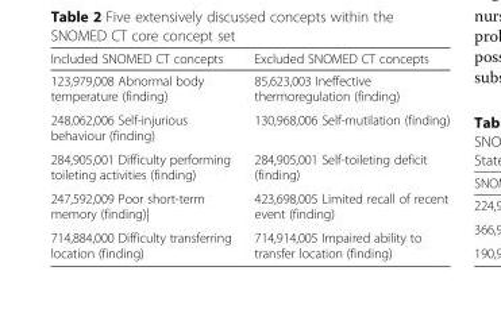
<table><thead><tr><td>Included SNOMED CT concepts</td><td>Excluded SNOMED CT concepts</td></tr></thead><tbody><tr><td>123,979,008 Abnormal body temperature (finding)</td><td>85,623,003 Ineffective thermoregulation (finding)</td></tr><tr><td>248,062,006 Self-injurious behaviour (finding)</td><td>130,968,006 Self-mutilation (finding)</td></tr><tr><td>284,905,001 Difficulty performing toileting activities (finding)</td><td>284,905,001 Self-toileting deficit (finding)</td></tr><tr><td>247,592,009 Poor short-term memory (finding)|</td><td>423,698,005 Limited recall of recent event (finding)</td></tr><tr><td>714,884,000 Difficulty transferring location (finding)</td><td>714,914,005 Impaired ability to transfer location (finding)</td></tr></tbody></table>